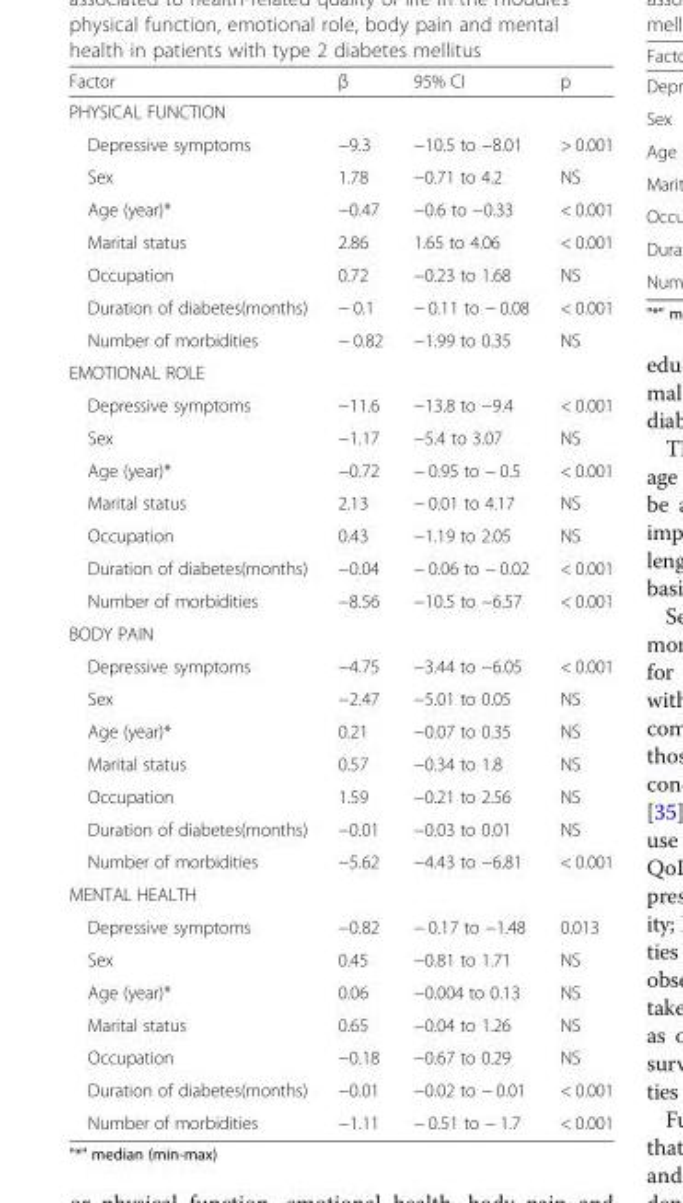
<table><thead><tr><td>Factor</td><td>β</td><td>95% CI</td><td>p</td></tr></thead><tbody><tr><td colspan="4">PHYSICAL FUNCTION</td></tr><tr><td>Depressive symptoms</td><td>−9.3</td><td>−10.5 to −8.01</td><td>&gt; 0.001</td></tr><tr><td>Sex</td><td>1.78</td><td>−0.71 to 4.2</td><td>NS</td></tr><tr><td>Age (year)*</td><td>−0.47</td><td>−0.6 to −0.33</td><td>&lt; 0.001</td></tr><tr><td>Marital status</td><td>2.86</td><td>1.65 to 4.06</td><td>&lt; 0.001</td></tr><tr><td>Occupation</td><td>0.72</td><td>−0.23 to 1.68</td><td>NS</td></tr><tr><td>Duration of diabetes(months)</td><td>− 0.1</td><td>− 0.11 to − 0.08</td><td>&lt; 0.001</td></tr><tr><td>Number of morbidities</td><td>− 0.82</td><td>−1.99 to 0.35</td><td>NS</td></tr><tr><td colspan="4">EMOTIONAL ROLE</td></tr><tr><td>Depressive symptoms</td><td>−11.6</td><td>−13.8 to −9.4</td><td>&lt; 0.001</td></tr><tr><td>Sex</td><td>−1.17</td><td>−5.4 to 3.07</td><td>NS</td></tr><tr><td>Age (year)*</td><td>−0.72</td><td>− 0.95 to − 0.5</td><td>&lt; 0.001</td></tr><tr><td>Marital status</td><td>2.13</td><td>− 0.01 to 4.17</td><td>NS</td></tr><tr><td>Occupation</td><td>0.43</td><td>−1.19 to 2.05</td><td>NS</td></tr><tr><td>Duration of diabetes(months)</td><td>−0.04</td><td>− 0.06 to − 0.02</td><td>&lt; 0.001</td></tr><tr><td>Number of morbidities</td><td>−8.56</td><td>−10.5 to −6.57</td><td>&lt; 0.001</td></tr><tr><td colspan="4">BODY PAIN</td></tr><tr><td>Depressive symptoms</td><td>−4.75</td><td>−3.44 to −6.05</td><td>&lt; 0.001</td></tr><tr><td>Sex</td><td>−2.47</td><td>−5.01 to 0.05</td><td>NS</td></tr><tr><td>Age (year)*</td><td>0.21</td><td>−0.07 to 0.35</td><td>NS</td></tr><tr><td>Marital status</td><td>0.57</td><td>−0.34 to 1.8</td><td>NS</td></tr><tr><td>Occupation</td><td>1.59</td><td>−0.21 to 2.56</td><td>NS</td></tr><tr><td>Duration of diabetes(months)</td><td>−0.01</td><td>−0.03 to 0.01</td><td>NS</td></tr><tr><td>Number of morbidities</td><td>−5.62</td><td>−4.43 to −6.81</td><td>&lt; 0.001</td></tr><tr><td colspan="4">MENTAL HEALTH</td></tr><tr><td>Depressive symptoms</td><td>−0.82</td><td>− 0.17 to −1.48</td><td>0.013</td></tr><tr><td>Sex</td><td>0.45</td><td>−0.81 to 1.71</td><td>NS</td></tr><tr><td>Age (year)*</td><td>0.06</td><td>−0.004 to 0.13</td><td>NS</td></tr><tr><td>Marital status</td><td>0.65</td><td>−0.04 to 1.26</td><td>NS</td></tr><tr><td>Occupation</td><td>−0.18</td><td>−0.67 to 0.29</td><td>NS</td></tr><tr><td>Duration of diabetes(months)</td><td>−0.01</td><td>−0.02 to − 0.01</td><td>&lt; 0.001</td></tr><tr><td>Number of morbidities</td><td>−1.11</td><td>− 0.51 to − 1.7</td><td>&lt; 0.001</td></tr></tbody></table>